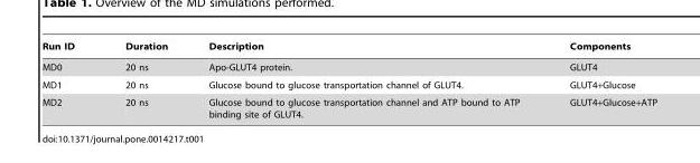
<table><thead><tr><td>Run ID</td><td>Duration</td><td>Description</td><td>Components</td></tr></thead><tbody><tr><td>MD0</td><td>20 ns</td><td>Apo-GLUT4 protein.</td><td>GLUT4</td></tr><tr><td>MD1</td><td>20 ns</td><td>Glucose bound to glucose transportation channel of GLUT4.</td><td>GLUT4+Glucose</td></tr><tr><td>MD2</td><td>20 ns</td><td>Glucose bound to glucose transportation channel and ATP bound to ATP binding site of GLUT4.</td><td>GLUT4+Glucose+ATP</td></tr></tbody></table>